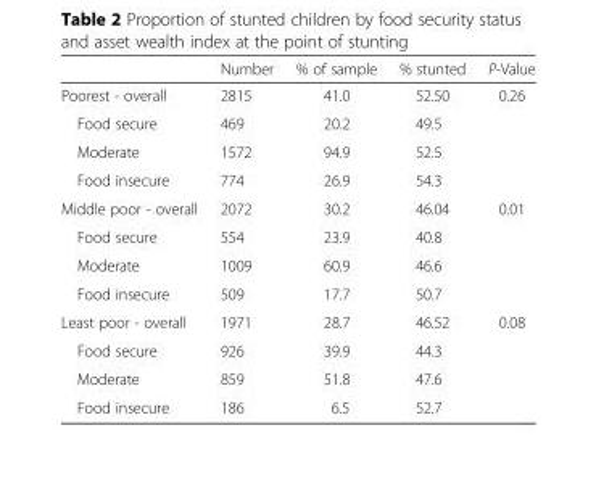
<table><thead><tr><td></td><td>Number</td><td>% of sample</td><td>% stunted</td><td>P-Value</td></tr></thead><tbody><tr><td>Poorest - overall</td><td>2815</td><td>41.0</td><td>52.50</td><td>0.26</td></tr><tr><td>Food secure</td><td>469</td><td>20.2</td><td>49.5</td><td></td></tr><tr><td>Moderate</td><td>1572</td><td>94.9</td><td>52.5</td><td></td></tr><tr><td>Food insecure</td><td>774</td><td>26.9</td><td>54.3</td><td></td></tr><tr><td>Middle poor - overall</td><td>2072</td><td>30.2</td><td>46.04</td><td>0.01</td></tr><tr><td>Food secure</td><td>554</td><td>23.9</td><td>40.8</td><td></td></tr><tr><td>Moderate</td><td>1009</td><td>60.9</td><td>46.6</td><td></td></tr><tr><td>Food insecure</td><td>509</td><td>17.7</td><td>50.7</td><td></td></tr><tr><td>Least poor - overall</td><td>1971</td><td>28.7</td><td>46.52</td><td>0.08</td></tr><tr><td>Food secure</td><td>926</td><td>39.9</td><td>44.3</td><td></td></tr><tr><td>Moderate</td><td>859</td><td>51.8</td><td>47.6</td><td></td></tr><tr><td>Food insecure</td><td>186</td><td>6.5</td><td>52.7</td><td></td></tr></tbody></table>